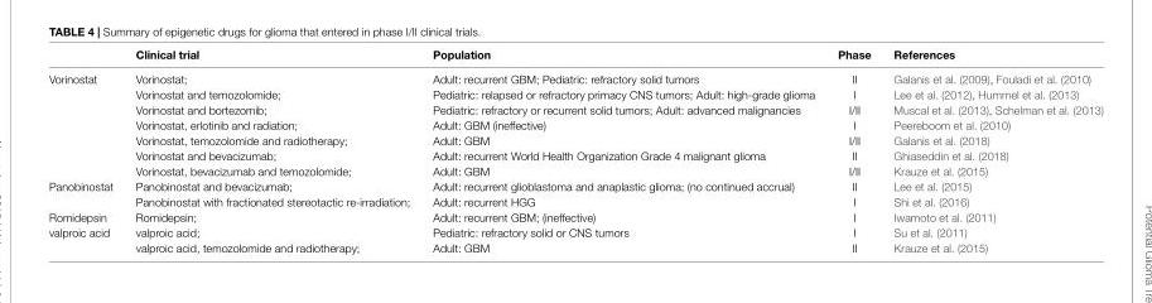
<table><thead><tr><td></td><td>Clinical trial</td><td>Population</td><td>Phase</td><td>References</td></tr></thead><tbody><tr><td rowspan="7">Vorinostat</td><td>Vorinostat;</td><td>Adult: recurrent GBM; Pediatric: refractory solid tumors</td><td>II</td><td>Galanis et al. (2009), Fouladi et al. (2010)</td></tr><tr><td>Vorinostat and temozolomide;</td><td>Pediatric: relapsed or refractory primacy CNS tumors; Adult: high-grade glioma</td><td>I</td><td>Lee et al. (2012), Hummel et al. (2013)</td></tr><tr><td>Vorinostat and bortezomib;</td><td>Pediatric: refractory or recurrent solid tumors; Adult: advanced malignancies</td><td>I/II</td><td>Muscal et al. (2013), Schelman et al. (2013)</td></tr><tr><td>Vorinostat, erlotinib and radiation;</td><td>Adult: GBM (ineffective)</td><td>I</td><td>Peereboom et al. (2010)</td></tr><tr><td>Vorinostat, temozolomide and radiotherapy;</td><td>Adult: GBM</td><td>I/II</td><td>Galanis et al. (2018)</td></tr><tr><td>Vorinostat and bevacizumab;</td><td>Adult: recurrent World Health Organization Grade 4 malignant glioma</td><td>II</td><td>Ghiaseddin et al. (2018)</td></tr><tr><td>Vorinostat, bevacizumab and temozolomide;</td><td>Adult: GBM</td><td>I/II</td><td>Krauze et al. (2015)</td></tr><tr><td rowspan="2">Panobinostat</td><td>Panobinostat and bevacizumab;</td><td>Adult: recurrent glioblastoma and anaplastic glioma; (no continued accrual)</td><td>II</td><td>Lee et al. (2015)</td></tr><tr><td>Panobinostat with fractionated stereotactic re-irradiation;</td><td>Adult: recurrent HGG</td><td>I</td><td>Shi et al. (2016)</td></tr><tr><td>Romidepsin</td><td>Romidepsin;</td><td>Adult: recurrent GBM; (ineffective)</td><td>I</td><td>Iwamoto et al. (2011)</td></tr><tr><td rowspan="2">valproic acid</td><td>valproic acid;</td><td>Pediatric: refractory solid or CNS tumors</td><td>I</td><td>Su et al. (2011)</td></tr><tr><td>valproic acid, temozolomide and radiotherapy;</td><td>Adult: GBM</td><td>II</td><td>Krauze et al. (2015)</td></tr></tbody></table>